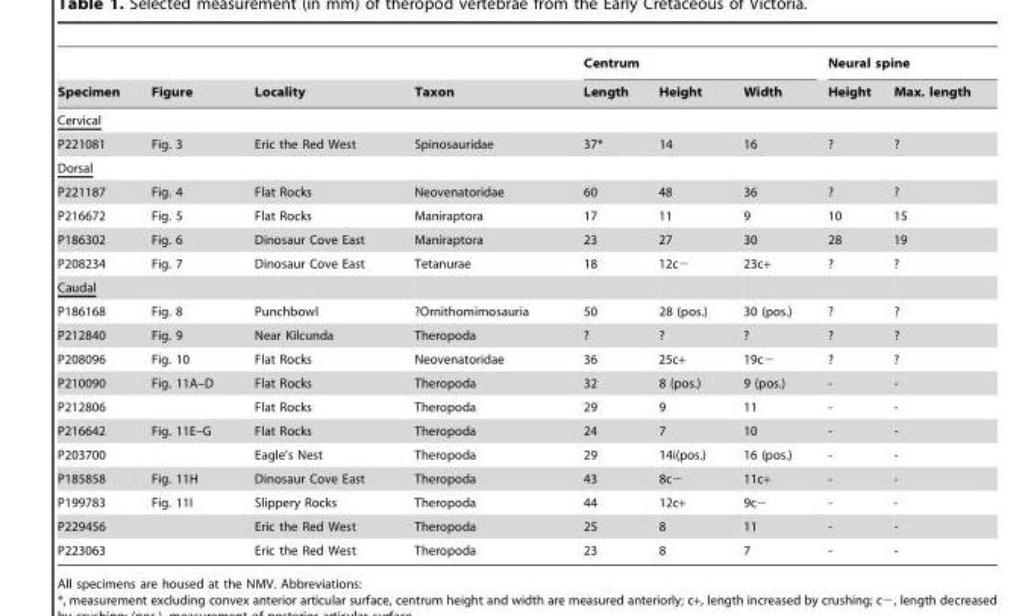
<table><thead><tr><td rowspan="2">Specimen</td><td rowspan="2">Figure</td><td rowspan="2">Locality</td><td rowspan="2">Taxon</td><td colspan="3">Centrum</td><td colspan="2">Neural spine</td></tr><tr><td>Length</td><td>Height</td><td>Width</td><td>Height</td><td>Max. length</td></tr></thead><tbody><tr><td colspan="9">Cervical</td></tr><tr><td>P221081</td><td>Fig. 3</td><td>Eric the Red West</td><td>Spinosauridae</td><td>37*</td><td>14</td><td>16</td><td>?</td><td>?</td></tr><tr><td colspan="9">Dorsal</td></tr><tr><td>P221187</td><td>Fig. 4</td><td>Flat Rocks</td><td>Neovenatoridae</td><td>60</td><td>48</td><td>36</td><td>?</td><td>?</td></tr><tr><td>P216672</td><td>Fig. 5</td><td>Flat Rocks</td><td>Maniraptora</td><td>17</td><td>11</td><td>9</td><td>10</td><td>15</td></tr><tr><td>P186302</td><td>Fig. 6</td><td>Dinosaur Cove East</td><td>Maniraptora</td><td>23</td><td>27</td><td>30</td><td>28</td><td>19</td></tr><tr><td>P208234</td><td>Fig. 7</td><td>Dinosaur Cove East</td><td>Tetanurae</td><td>18</td><td>12c−</td><td>23c+</td><td>?</td><td>?</td></tr><tr><td colspan="9">Caudal</td></tr><tr><td>P186168</td><td>Fig. 8</td><td>Punchbowl</td><td>?Ornithomimosauria</td><td>50</td><td>28 (pos.)</td><td>30 (pos.)</td><td>?</td><td>?</td></tr><tr><td>P212840</td><td>Fig. 9</td><td>Near Kilcunda</td><td>Theropoda</td><td>?</td><td>?</td><td>?</td><td>?</td><td>?</td></tr><tr><td>P208096</td><td>Fig. 10</td><td>Flat Rocks</td><td>Neovenatoridae</td><td>36</td><td>25c+</td><td>19c−</td><td>?</td><td>?</td></tr><tr><td>P210090</td><td>Fig. 11A–D</td><td>Flat Rocks</td><td>Theropoda</td><td>32</td><td>8 (pos.)</td><td>9 (pos.)</td><td>-</td><td>-</td></tr><tr><td>P212806</td><td></td><td>Flat Rocks</td><td>Theropoda</td><td>29</td><td>9</td><td>11</td><td>-</td><td>-</td></tr><tr><td>P216642</td><td>Fig. 11E–G</td><td>Flat Rocks</td><td>Theropoda</td><td>24</td><td>7</td><td>10</td><td>-</td><td>-</td></tr><tr><td>P203700</td><td></td><td>Eagle’s Nest</td><td>Theropoda</td><td>29</td><td>14i(pos.)</td><td>16 (pos.)</td><td>-</td><td>-</td></tr><tr><td>P185858</td><td>Fig. 11H</td><td>Dinosaur Cove East</td><td>Theropoda</td><td>43</td><td>8c−</td><td>11c+</td><td>-</td><td>-</td></tr><tr><td>P199783</td><td>Fig. 11I</td><td>Slippery Rocks</td><td>Theropoda</td><td>44</td><td>12c+</td><td>9c−</td><td>-</td><td>-</td></tr><tr><td>P229456</td><td></td><td>Eric the Red West</td><td>Theropoda</td><td>25</td><td>8</td><td>11</td><td>-</td><td>-</td></tr><tr><td>P223063</td><td></td><td>Eric the Red West</td><td>Theropoda</td><td>23</td><td>8</td><td>7</td><td>-</td><td>-</td></tr></tbody></table>